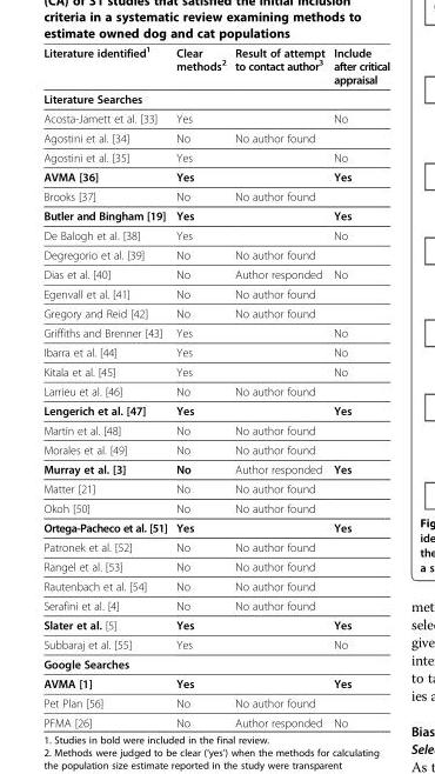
<table><thead><tr><td>Literature identified<sup>1</sup></td><td>Clear methods<sup>2</sup></td><td>Result of attempt to contact author<sup>3</sup></td><td>Include after critical appraisal</td></tr></thead><tbody><tr><td colspan="4">Literature Searches</td></tr><tr><td>Acosta-Jamett et al. [33]</td><td>Yes</td><td></td><td>No</td></tr><tr><td>Agostini et al. [34]</td><td>No</td><td>No author found</td><td></td></tr><tr><td>Agostini et al. [35]</td><td>Yes</td><td></td><td>No</td></tr><tr><td>AVMA [36]</td><td>Yes</td><td></td><td>Yes</td></tr><tr><td>Brooks [37]</td><td>No</td><td>No author found</td><td></td></tr><tr><td>Butler and Bingham [19]</td><td>Yes</td><td></td><td>Yes</td></tr><tr><td>De Balogh et al. [38]</td><td>Yes</td><td></td><td>No</td></tr><tr><td>Degregorio et al. [39]</td><td>No</td><td>No author found</td><td></td></tr><tr><td>Dias et al. [40]</td><td>No</td><td>Author responded</td><td>No</td></tr><tr><td>Egenvall et al. [41]</td><td>No</td><td>No author found</td><td></td></tr><tr><td>Gregory and Reid [42]</td><td>No</td><td>No author found</td><td></td></tr><tr><td>Griffiths and Brenner [43]</td><td>Yes</td><td></td><td>No</td></tr><tr><td>Ibarra et al. [44]</td><td>Yes</td><td></td><td>No</td></tr><tr><td>Kitala et al. [45]</td><td>Yes</td><td></td><td>No</td></tr><tr><td>Larrieu et al. [46]</td><td>No</td><td>No author found</td><td></td></tr><tr><td>Lengerich et al. [47]</td><td>Yes</td><td></td><td>Yes</td></tr><tr><td>Martin et al. [48]</td><td>No</td><td>No author found</td><td></td></tr><tr><td>Morales et al. [49]</td><td>No</td><td>No author found</td><td></td></tr><tr><td>Murray et al. [3]</td><td>No</td><td>Author responded</td><td>Yes</td></tr><tr><td>Matter [21]</td><td>No</td><td>No author found</td><td></td></tr><tr><td>Okoh [50]</td><td>No</td><td>No author found</td><td></td></tr><tr><td>Ortega-Pacheco et al. [51]</td><td>Yes</td><td></td><td>Yes</td></tr><tr><td>Patronek et al. [52]</td><td>No</td><td>No author found</td><td></td></tr><tr><td>Rangel et al. [53]</td><td>No</td><td>No author found</td><td></td></tr><tr><td>Rautenbach et al. [54]</td><td>No</td><td>No author found</td><td></td></tr><tr><td>Serafini et al. [4]</td><td>No</td><td>No author found</td><td></td></tr><tr><td>Slater et al. [5]</td><td>Yes</td><td></td><td>Yes</td></tr><tr><td>Subbaraj et al. [55]</td><td>Yes</td><td></td><td>No</td></tr><tr><td colspan="4">Google Searches</td></tr><tr><td>AVMA [1]</td><td>Yes</td><td></td><td>Yes</td></tr><tr><td>Pet Plan [56]</td><td>No</td><td>No author found</td><td></td></tr><tr><td>PFMA [26]</td><td>No</td><td>Author responded</td><td>No</td></tr></tbody></table>